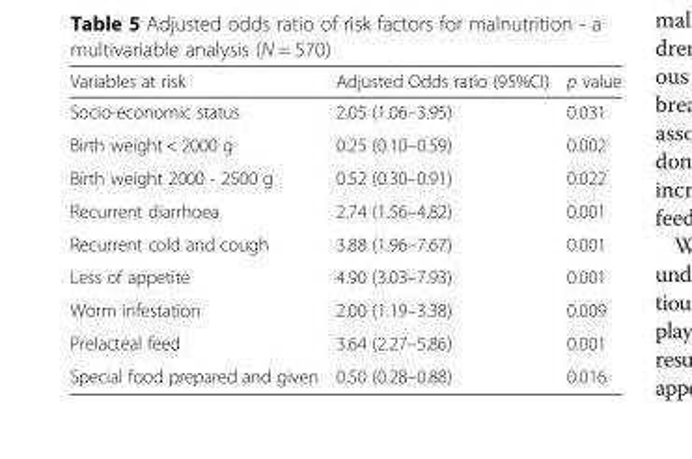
<table><thead><tr><td>Variables at risk</td><td>Adjusted Odds ratio (95%CI)</td><td>p value</td></tr></thead><tbody><tr><td>Socio-economic status</td><td>2.05 (1.06–3.95)</td><td>0.031</td></tr><tr><td>Birth weight &lt; 2000 g</td><td>0.25 (0.10–0.59)</td><td>0.002</td></tr><tr><td>Birth weight 2000 - 2500 g</td><td>0.52 (0.30–0.91)</td><td>0.022</td></tr><tr><td>Recurrent diarrhoea</td><td>2.74 (1.56–4.82)</td><td>0.001</td></tr><tr><td>Recurrent cold and cough</td><td>3.88 (1.96–7.67)</td><td>0.001</td></tr><tr><td>Less of appetite</td><td>4.90 (3.03–7.93)</td><td>0.001</td></tr><tr><td>Worm infestation</td><td>2.00 (1.19–3.38)</td><td>0.009</td></tr><tr><td>Prelacteal feed</td><td>3.64 (2.27–5.86)</td><td>0.001</td></tr><tr><td>Special food prepared and given</td><td>0.50 (0.28–0.88)</td><td>0.016</td></tr></tbody></table>